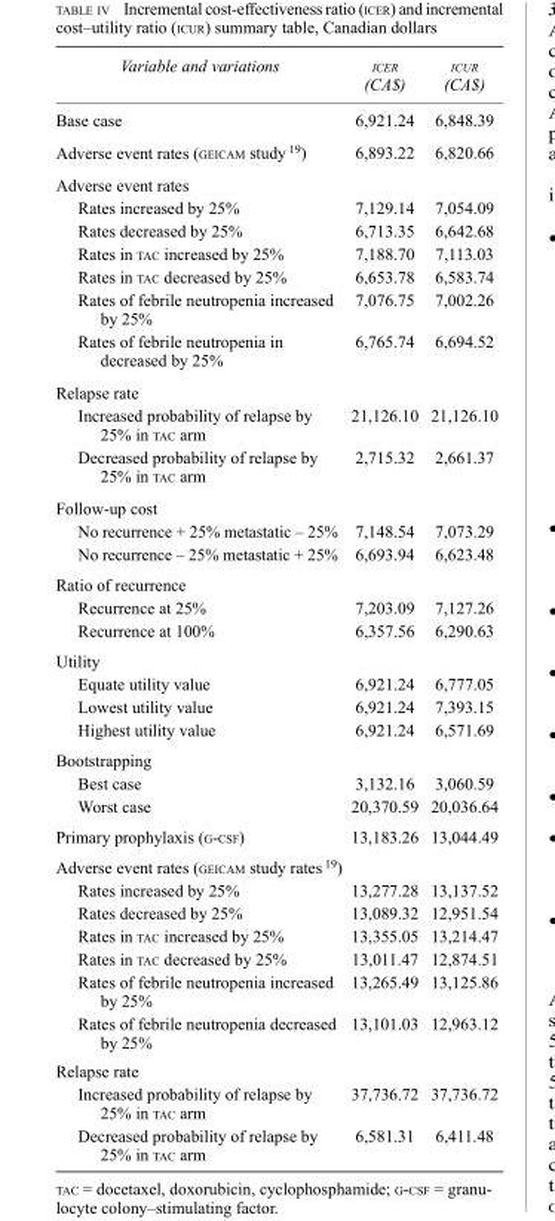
<table><thead><tr><td>Variable and variations</td><td>iCer (CA$)</td><td>iCur (CA$)</td></tr></thead><tbody><tr><td>Base case</td><td>6,921.24</td><td>6,848.39</td></tr><tr><td>Adverse event rates (geicam study 19)</td><td>6,893.22</td><td>6,820.66</td></tr><tr><td colspan="3">Adverse event rates</td></tr><tr><td>Rates increased by 25%</td><td>7,129.14</td><td>7,054.09</td></tr><tr><td>Rates decreased by 25%</td><td>6,713.35</td><td>6,642.68</td></tr><tr><td>Rates in tac increased by 25%</td><td>7,188.70</td><td>7,113.03</td></tr><tr><td>Rates in tac decreased by 25%</td><td>6,653.78</td><td>6,583.74</td></tr><tr><td>Rates of febrile neutropenia increased by 25%</td><td>7,076.75</td><td>7,002.26</td></tr><tr><td>Rates of febrile neutropenia in decreased by 25%</td><td>6,765.74</td><td>6,694.52</td></tr><tr><td colspan="3">Relapse rate</td></tr><tr><td>Increased probability of relapse by 25% in tac arm</td><td>21,126.10</td><td>21,126.10</td></tr><tr><td>Decreased probability of relapse by 25% in tac arm</td><td>2,715.32</td><td>2,661.37</td></tr><tr><td colspan="3">Follow-up cost</td></tr><tr><td>No recurrence + 25% metastatic – 25%</td><td>7,148.54</td><td>7,073.29</td></tr><tr><td>No recurrence – 25% metastatic + 25%</td><td>6,693.94</td><td>6,623.48</td></tr><tr><td colspan="3">Ratio of recurrence</td></tr><tr><td>Recurrence at 25%</td><td>7,203.09</td><td>7,127.26</td></tr><tr><td>Recurrence at 100%</td><td>6,357.56</td><td>6,290.63</td></tr><tr><td colspan="3">Utility</td></tr><tr><td>Equate utility value</td><td>6,921.24</td><td>6,777.05</td></tr><tr><td>Lowest utility value</td><td>6,921.24</td><td>7,393.15</td></tr><tr><td>Highest utility value</td><td>6,921.24</td><td>6,571.69</td></tr><tr><td colspan="3">Bootstrapping</td></tr><tr><td>Best case</td><td>3,132.16</td><td>3,060.59</td></tr><tr><td>Worst case</td><td>20,370.59</td><td>20,036.64</td></tr><tr><td>Primary prophylaxis (g-csf)</td><td>13,183.26</td><td>13,044.49</td></tr><tr><td colspan="3">Adverse event rates (geicam study rates 19)</td></tr><tr><td>Rates increased by 25%</td><td>13,277.28</td><td>13,137.52</td></tr><tr><td>Rates decreased by 25%</td><td>13,089.32</td><td>12,951.54</td></tr><tr><td>Rates in tac increased by 25%</td><td>13,355.05</td><td>13,214.47</td></tr><tr><td>Rates in tac decreased by 25%</td><td>13,011.47</td><td>12,874.51</td></tr><tr><td>Rates of febrile neutropenia increased by 25%</td><td>13,265.49</td><td>13,125.86</td></tr><tr><td>Rates of febrile neutropenia decreased by 25%</td><td>13,101.03</td><td>12,963.12</td></tr><tr><td colspan="3">Relapse rate</td></tr><tr><td>Increased probability of relapse by 25% in tac arm</td><td>37,736.72</td><td>37,736.72</td></tr><tr><td>Decreased probability of relapse by 25% in tac arm</td><td>6,581.31</td><td>6,411.48</td></tr></tbody></table>